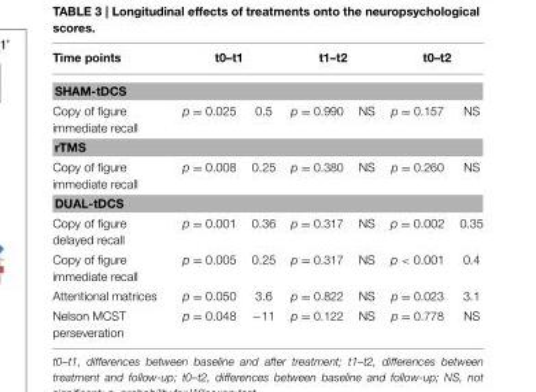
<table><thead><tr><td>Time points</td><td colspan="2">t0–t1</td><td colspan="2">t1–t2</td><td colspan="2">t0–t2</td></tr><tr><td colspan="7">SHAM-tDCS</td></tr><tr><td>Copy of figure immediate recall</td><td>p = 0.025</td><td>0.5</td><td>p = 0.990</td><td>NS</td><td>p = 0.157</td><td>NS</td></tr></thead><tbody><tr><td colspan="7">rTMS</td></tr><tr><td>Copy of figure immediate recall</td><td>p = 0.008</td><td>0.25</td><td>p = 0.380</td><td>NS</td><td>p = 0.260</td><td>NS</td></tr><tr><td colspan="7">DUAL-tDCS</td></tr><tr><td>Copy of figure delayed recall</td><td>p = 0.001</td><td>0.36</td><td>p = 0.317</td><td>NS</td><td>p = 0.002</td><td>0.35</td></tr><tr><td>Copy of figure immediate recall</td><td>p = 0.005</td><td>0.25</td><td>p = 0.317</td><td>NS</td><td>p &lt; 0.001</td><td>0.4</td></tr><tr><td>Attentional matrices</td><td>p = 0.050</td><td>3.6</td><td>p = 0.822</td><td>NS</td><td>p = 0.023</td><td>3.1</td></tr><tr><td>Nelson MCST perseveration</td><td>p = 0.048</td><td>−11</td><td>p = 0.122</td><td>NS</td><td>p = 0.778</td><td>NS</td></tr></tbody></table>